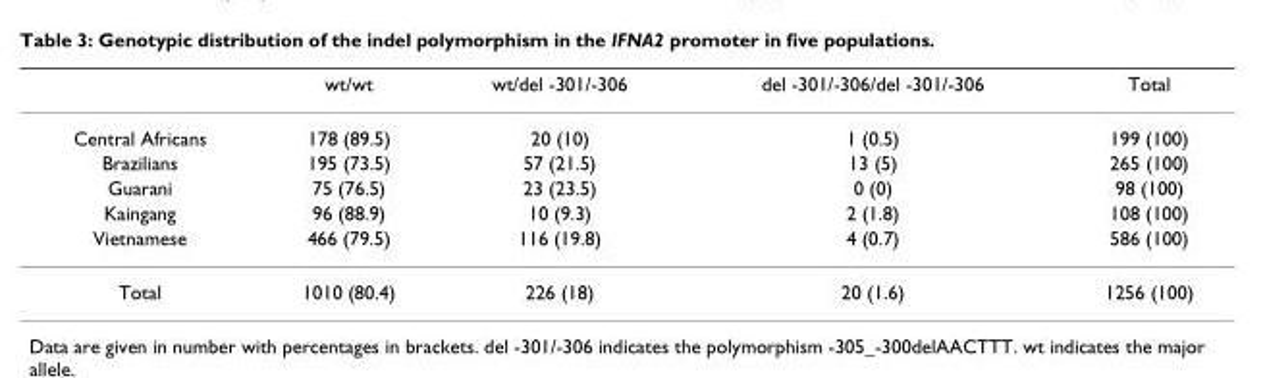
<table><thead><tr><td></td><td>wt/wt</td><td>wt/del -301/-306</td><td>del -301/-306/del -301/-306</td><td>Total</td></tr></thead><tbody><tr><td>Central Africans</td><td>178 (89.5)</td><td>20 (10)</td><td>1 (0.5)</td><td>199 (100)</td></tr><tr><td>Brazilians</td><td>195 (73.5)</td><td>57 (21.5)</td><td>13 (5)</td><td>265 (100)</td></tr><tr><td>Guarani</td><td>75 (76.5)</td><td>23 (23.5)</td><td>0 (0)</td><td>98 (100)</td></tr><tr><td>Kaingang</td><td>96 (88.9)</td><td>10 (9.3)</td><td>2 (1.8)</td><td>108 (100)</td></tr><tr><td>Vietnamese</td><td>466 (79.5)</td><td>116 (19.8)</td><td>4 (0.7)</td><td>586 (100)</td></tr><tr><td>Total</td><td>1010 (80.4)</td><td>226 (18)</td><td>20 (1.6)</td><td>1256 (100)</td></tr></tbody></table>